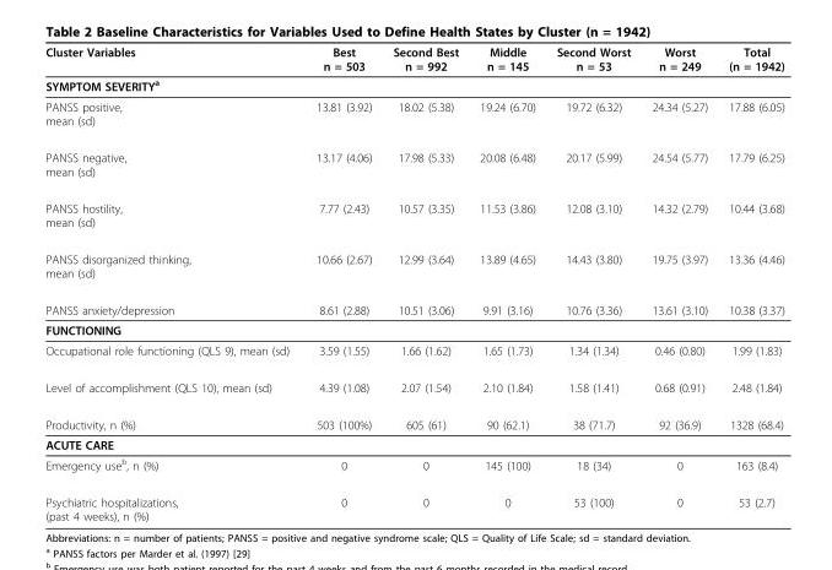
<table><thead><tr><td>Cluster Variables</td><td>Best n = 503</td><td>Second Best n = 992</td><td>Middle n = 145</td><td>Second Worst n = 53</td><td>Worst n = 249</td><td>Total (n = 1942)</td></tr></thead><tbody><tr><td colspan="7">SYMPTOM SEVERITY<sup>a</sup></td></tr><tr><td>PANSS positive, mean (sd)</td><td>13.81 (3.92)</td><td>18.02 (5.38)</td><td>19.24 (6.70)</td><td>19.72 (6.32)</td><td>24.34 (5.27)</td><td>17.88 (6.05)</td></tr><tr><td>PANSS negative, mean (sd)</td><td>13.17 (4.06)</td><td>17.98 (5.33)</td><td>20.08 (6.48)</td><td>20.17 (5.99)</td><td>24.54 (5.77)</td><td>17.79 (6.25)</td></tr><tr><td>PANSS hostility, mean (sd)</td><td>7.77 (2.43)</td><td>10.57 (3.35)</td><td>11.53 (3.86)</td><td>12.08 (3.10)</td><td>14.32 (2.79)</td><td>10.44 (3.68)</td></tr><tr><td>PANSS disorganized thinking, mean (sd)</td><td>10.66 (2.67)</td><td>12.99 (3.64)</td><td>13.89 (4.65)</td><td>14.43 (3.80)</td><td>19.75 (3.97)</td><td>13.36 (4.46)</td></tr><tr><td>PANSS anxiety/depression</td><td>8.61 (2.88)</td><td>10.51 (3.06)</td><td>9.91 (3.16)</td><td>10.76 (3.36)</td><td>13.61 (3.10)</td><td>10.38 (3.37)</td></tr><tr><td colspan="7">FUNCTIONING</td></tr><tr><td>Occupational role functioning (QLS 9), mean (sd)</td><td>3.59 (1.55)</td><td>1.66 (1.62)</td><td>1.65 (1.73)</td><td>1.34 (1.34)</td><td>0.46 (0.80)</td><td>1.99 (1.83)</td></tr><tr><td>Level of accomplishment (QLS 10), mean (sd)</td><td>4.39 (1.08)</td><td>2.07 (1.54)</td><td>2.10 (1.84)</td><td>1.58 (1.41)</td><td>0.68 (0.91)</td><td>2.48 (1.84)</td></tr><tr><td>Productivity, n (%)</td><td>503 (100%)</td><td>605 (61)</td><td>90 (62.1)</td><td>38 (71.7)</td><td>92 (36.9)</td><td>1328 (68.4)</td></tr><tr><td colspan="7">ACUTE CARE</td></tr><tr><td>Emergency use<sup>b</sup>, n (%)</td><td>0</td><td>0</td><td>145 (100)</td><td>18 (34)</td><td>0</td><td>163 (8.4)</td></tr><tr><td>Psychiatric hospitalizations, (past 4 weeks), n (%)</td><td>0</td><td>0</td><td>0</td><td>53 (100)</td><td>0</td><td>53 (2.7)</td></tr></tbody></table>